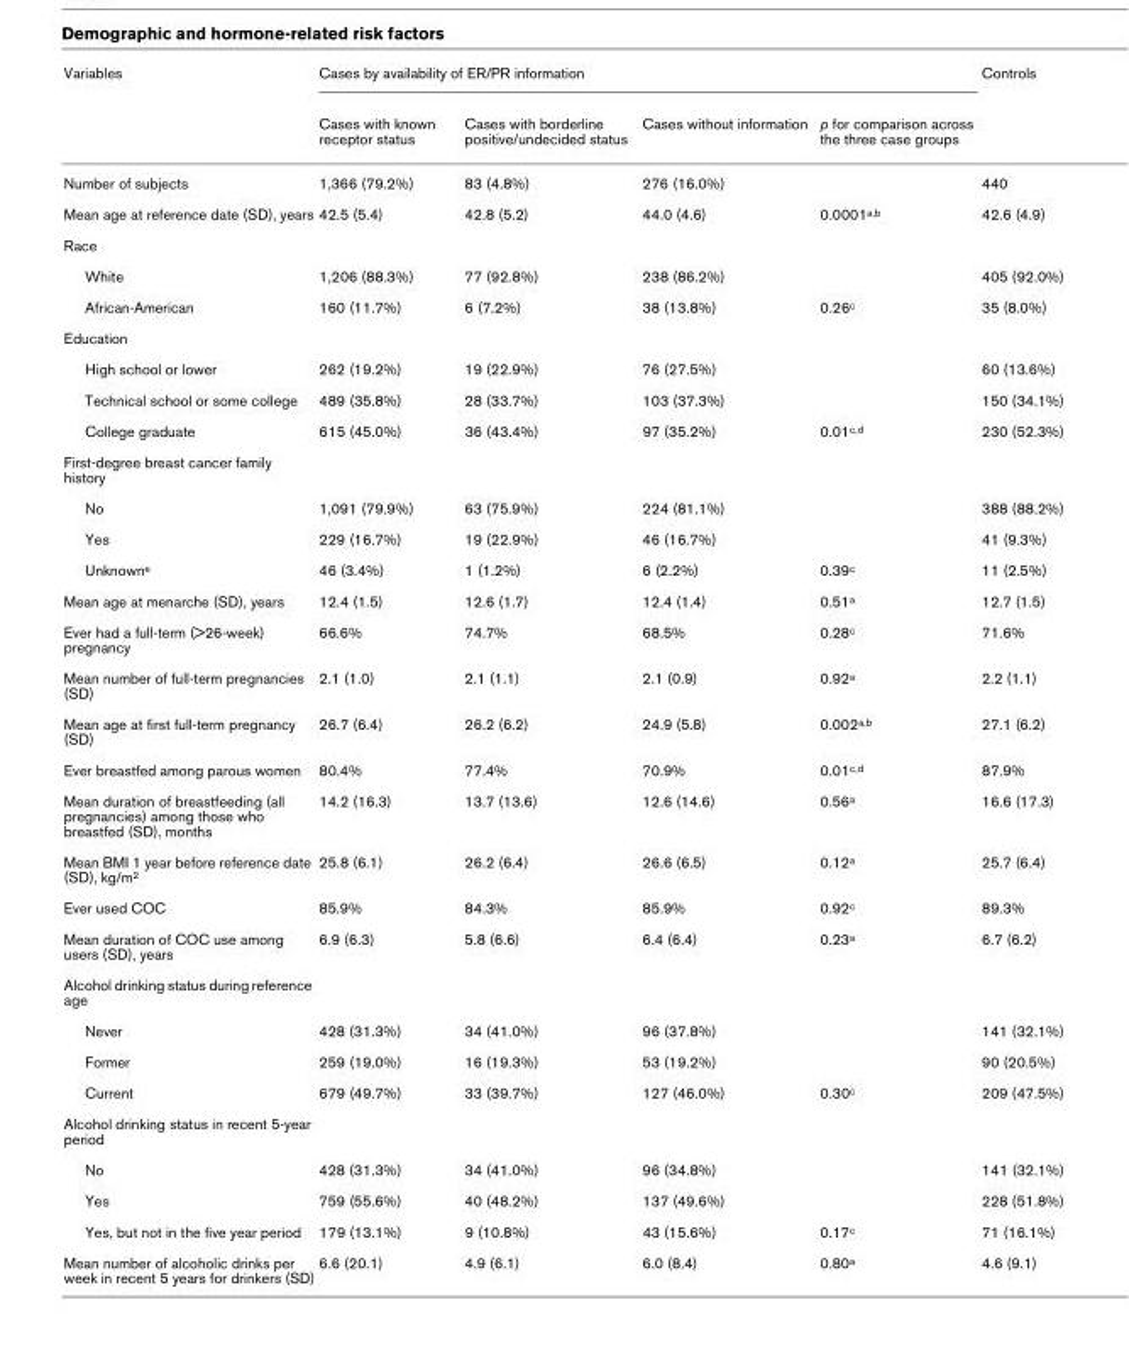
<table><thead><tr><td rowspan="2">Variables</td><td colspan="4">Cases by availability of ER/PR information</td><td rowspan="2">Controls</td></tr><tr><td>Cases with known receptor status</td><td>Cases with borderline positive/undecided status</td><td>Cases without information</td><td>p for comparison across the three case groups</td></tr></thead><tbody><tr><td>Number of subjects</td><td>1,366 (79.2%)</td><td>83 (4.8%)</td><td>276 (16.0%)</td><td></td><td>440</td></tr><tr><td>Mean age at reference date (SD), years</td><td>42.5 (5.4)</td><td>42.8 (5.2)</td><td>44.0 (4.6)</td><td>0.0001a,b</td><td>42.6 (4.9)</td></tr><tr><td colspan="6">Race</td></tr><tr><td>White</td><td>1,206 (88.3%)</td><td>77 (92.8%)</td><td>238 (86.2%)</td><td></td><td>405 (92.0%)</td></tr><tr><td>African-American</td><td>160 (11.7%)</td><td>6 (7.2%)</td><td>38 (13.8%)</td><td>0.26c</td><td>35 (8.0%)</td></tr><tr><td colspan="6">Education</td></tr><tr><td>High school or lower</td><td>262 (19.2%)</td><td>19 (22.9%)</td><td>76 (27.5%)</td><td></td><td>60 (13.6%)</td></tr><tr><td>Technical school or some college</td><td>489 (35.8%)</td><td>28 (33.7%)</td><td>103 (37.3%)</td><td></td><td>150 (34.1%)</td></tr><tr><td>College graduate</td><td>615 (45.0%)</td><td>36 (43.4%)</td><td>97 (35.2%)</td><td>0.01c,d</td><td>230 (52.3%)</td></tr><tr><td colspan="6">First-degree breast cancer family history</td></tr><tr><td>No</td><td>1,091 (79.9%)</td><td>63 (75.9%)</td><td>224 (81.1%)</td><td></td><td>388 (88.2%)</td></tr><tr><td>Yes</td><td>229 (16.7%)</td><td>19 (22.9%)</td><td>46 (16.7%)</td><td></td><td>41 (9.3%)</td></tr><tr><td>Unknowne</td><td>46 (3.4%)</td><td>1 (1.2%)</td><td>6 (2.2%)</td><td>0.39c</td><td>11 (2.5%)</td></tr><tr><td>Mean age at menarche (SD), years</td><td>12.4 (1.5)</td><td>12.6 (1.7)</td><td>12.4 (1.4)</td><td>0.51a</td><td>12.7 (1.5)</td></tr><tr><td>Ever had a full-term (&gt;26-week) pregnancy</td><td>66.6%</td><td>74.7%</td><td>68.5%</td><td>0.28c</td><td>71.6%</td></tr><tr><td>Mean number of full-term pregnancies (SD)</td><td>2.1 (1.0)</td><td>2.1 (1.1)</td><td>2.1 (0.9)</td><td>0.92a</td><td>2.2 (1.1)</td></tr><tr><td>Mean age at first full-term pregnancy (SD)</td><td>26.7 (6.4)</td><td>26.2 (6.2)</td><td>24.9 (5.8)</td><td>0.002a,b</td><td>27.1 (6.2)</td></tr><tr><td>Ever breastfed among parous women</td><td>80.4%</td><td>77.4%</td><td>70.9%</td><td>0.01c,d</td><td>87.9%</td></tr><tr><td>Mean duration of breastfeeding (all pregnancies) among those who breastfed (SD), months</td><td>14.2 (16.3)</td><td>13.7 (13.6)</td><td>12.6 (14.6)</td><td>0.56a</td><td>16.6 (17.3)</td></tr><tr><td>Mean BMI 1 year before reference date (SD), kg/m2</td><td>25.8 (6.1)</td><td>26.2 (6.4)</td><td>26.6 (6.5)</td><td>0.12a</td><td>25.7 (6.4)</td></tr><tr><td>Ever used COC</td><td>85.9%</td><td>84.3%</td><td>85.9%</td><td>0.92c</td><td>89.3%</td></tr><tr><td>Mean duration of COC use among users (SD), years</td><td>6.9 (6.3)</td><td>5.8 (6.6)</td><td>6.4 (6.4)</td><td>0.23a</td><td>6.7 (6.2)</td></tr><tr><td colspan="6">Alcohol drinking status during reference age</td></tr><tr><td>Never</td><td>428 (31.3%)</td><td>34 (41.0%)</td><td>96 (37.8%)</td><td></td><td>141 (32.1%)</td></tr><tr><td>Former</td><td>259 (19.0%)</td><td>16 (19.3%)</td><td>53 (19.2%)</td><td></td><td>90 (20.5%)</td></tr><tr><td>Current</td><td>679 (49.7%)</td><td>33 (39.7%)</td><td>127 (46.0%)</td><td>0.30c</td><td>209 (47.5%)</td></tr><tr><td colspan="6">Alcohol drinking status in recent 5-year period</td></tr><tr><td>No</td><td>428 (31.3%)</td><td>34 (41.0%)</td><td>96 (34.8%)</td><td></td><td>141 (32.1%)</td></tr><tr><td>Yes</td><td>759 (55.6%)</td><td>40 (48.2%)</td><td>137 (49.6%)</td><td></td><td>228 (51.8%)</td></tr><tr><td>Yes, but not in the five year period</td><td>179 (13.1%)</td><td>9 (10.8%)</td><td>43 (15.6%)</td><td>0.17c</td><td>71 (16.1%)</td></tr><tr><td>Mean number of alcoholic drinks per week in recent 5 years for drinkers (SD)</td><td>6.6 (20.1)</td><td>4.9 (6.1)</td><td>6.0 (8.4)</td><td>0.80a</td><td>4.6 (9.1)</td></tr></tbody></table>